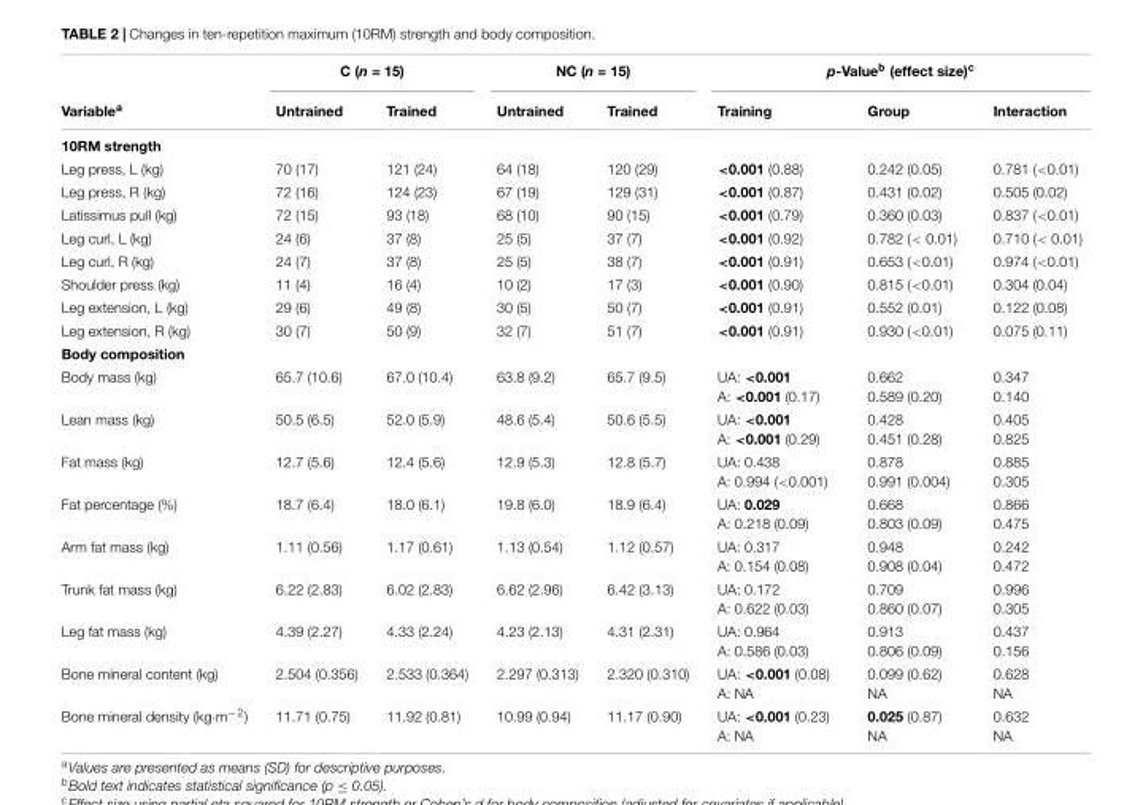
<table><thead><tr><td rowspan="2">Variable<sup>a</sup></td><td colspan="2">C (n = 15)</td><td colspan="2">NC (n = 15)</td><td colspan="3">p-Value<sup>b</sup> (effect size)<sup>c</sup></td></tr><tr><td>Untrained</td><td>Trained</td><td>Untrained</td><td>Trained</td><td>Training</td><td>Group</td><td>Interaction</td></tr></thead><tbody><tr><td colspan="8">10RM strength</td></tr><tr><td>Leg press, L (kg)</td><td>70 (17)</td><td>121 (24)</td><td>64 (18)</td><td>120 (29)</td><td>&lt;0.001 (0.88)</td><td>0.242 (0.05)</td><td>0.781 (&lt;0.01)</td></tr><tr><td>Leg press, R (kg)</td><td>72 (16)</td><td>124 (23)</td><td>67 (19)</td><td>129 (31)</td><td>&lt;0.001 (0.87)</td><td>0.431 (0.02)</td><td>0.505 (0.02)</td></tr><tr><td>Latissimus pull (kg)</td><td>72 (15)</td><td>93 (18)</td><td>68 (10)</td><td>90 (15)</td><td>&lt;0.001 (0.79)</td><td>0.360 (0.03)</td><td>0.837 (&lt;0.01)</td></tr><tr><td>Leg curl, L (kg)</td><td>24 (6)</td><td>37 (8)</td><td>25 (5)</td><td>37 (7)</td><td>&lt;0.001 (0.92)</td><td>0.782 (&lt; 0.01)</td><td>0.710 (&lt; 0.01)</td></tr><tr><td>Leg curl, R (kg)</td><td>24 (7)</td><td>37 (8)</td><td>25 (5)</td><td>38 (7)</td><td>&lt;0.001 (0.91)</td><td>0.653 (&lt;0.01)</td><td>0.974 (&lt;0.01)</td></tr><tr><td>Shoulder press (kg)</td><td>11 (4)</td><td>16 (4)</td><td>10 (2)</td><td>17 (3)</td><td>&lt;0.001 (0.90)</td><td>0.815 (&lt;0.01)</td><td>0.304 (0.04)</td></tr><tr><td>Leg extension, L (kg)</td><td>29 (6)</td><td>49 (8)</td><td>30 (5)</td><td>50 (7)</td><td>&lt;0.001 (0.91)</td><td>0.552 (0.01)</td><td>0.122 (0.08)</td></tr><tr><td>Leg extension, R (kg)</td><td>30 (7)</td><td>50 (9)</td><td>32 (7)</td><td>51 (7)</td><td>&lt;0.001 (0.91)</td><td>0.930 (&lt;0.01)</td><td>0.075 (0.11)</td></tr><tr><td colspan="8">Body composition</td></tr><tr><td>Body mass (kg)</td><td>65.7 (10.6)</td><td>67.0 (10.4)</td><td>63.8 (9.2)</td><td>65.7 (9.5)</td><td>UA: &lt;0.001 A: &lt;0.001 (0.17)</td><td>0.662 0.589 (0.20)</td><td>0.347 0.140</td></tr><tr><td>Lean mass (kg)</td><td>50.5 (6.5)</td><td>52.0 (5.9)</td><td>48.6 (5.4)</td><td>50.6 (5.5)</td><td>UA: &lt;0.001 A: &lt;0.001 (0.29)</td><td>0.428 0.451 (0.28)</td><td>0.405 0.825</td></tr><tr><td>Fat mass (kg)</td><td>12.7 (5.6)</td><td>12.4 (5.6)</td><td>12.9 (5.3)</td><td>12.8 (5.7)</td><td>UA: 0.438 A: 0.994 (&lt;0.001)</td><td>0.878 0.991 (0.004)</td><td>0.885 0.305</td></tr><tr><td>Fat percentage (%)</td><td>18.7 (6.4)</td><td>18.0 (6.1)</td><td>19.8 (6.0)</td><td>18.9 (6.4)</td><td>UA: 0.029 A: 0.218 (0.09)</td><td>0.668 0.803 (0.09)</td><td>0.866 0.475</td></tr><tr><td>Arm fat mass (kg)</td><td>1.11 (0.56)</td><td>1.17 (0.61)</td><td>1.13 (0.54)</td><td>1.12 (0.57)</td><td>UA: 0.317 A: 0.154 (0.08)</td><td>0.948 0.908 (0.04)</td><td>0.242 0.472</td></tr><tr><td>Trunk fat mass (kg)</td><td>6.22 (2.83)</td><td>6.02 (2.83)</td><td>6.62 (2.96)</td><td>6.42 (3.13)</td><td>UA: 0.172 A: 0.622 (0.03)</td><td>0.709 0.860 (0.07)</td><td>0.996 0.305</td></tr><tr><td>Leg fat mass (kg)</td><td>4.39 (2.27)</td><td>4.33 (2.24)</td><td>4.23 (2.13)</td><td>4.31 (2.31)</td><td>UA: 0.964 A: 0.586 (0.03)</td><td>0.913 0.806 (0.09)</td><td>0.437 0.156</td></tr><tr><td>Bone mineral content (kg)</td><td>2.504 (0.356)</td><td>2.533 (0.364)</td><td>2.297 (0.313)</td><td>2.320 (0.310)</td><td>UA: &lt;0.001 (0.08) A: NA</td><td>0.099 (0.62) NA</td><td>0.628 NA</td></tr><tr><td>Bone mineral density (kg·m−2)</td><td>11.71 (0.75)</td><td>11.92 (0.81)</td><td>10.99 (0.94)</td><td>11.17 (0.90)</td><td>UA: &lt;0.001 (0.23) A: NA</td><td>0.025 (0.87) NA</td><td>0.632 NA</td></tr></tbody></table>